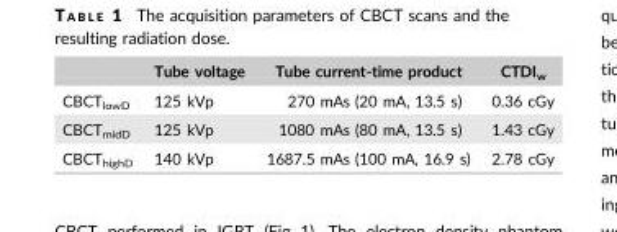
<table><thead><tr><td></td><td>Tube voltage</td><td>Tube current-time product</td><td>CTDI<sub>w</sub></td></tr></thead><tbody><tr><td>CBCT<sub>lowD</sub></td><td>125 kVp</td><td>270 mAs (20 mA, 13.5 s)</td><td>0.36 cGy</td></tr><tr><td>CBCT<sub>midD</sub></td><td>125 kVp</td><td>1080 mAs (80 mA, 13.5 s)</td><td>1.43 cGy</td></tr><tr><td>CBCT<sub>highD</sub></td><td>140 kVp</td><td>1687.5 mAs (100 mA, 16.9 s)</td><td>2.78 cGy</td></tr></tbody></table>